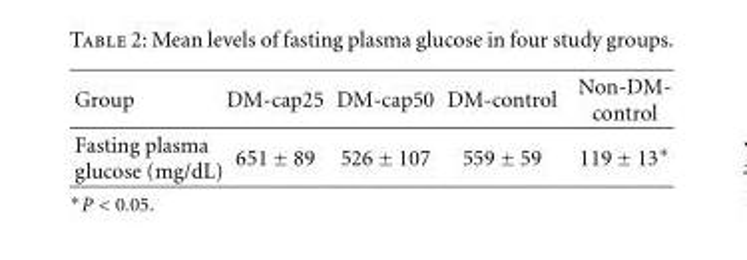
<table><thead><tr><td>Group</td><td>DM-cap25</td><td>DM-cap50</td><td>DM-control</td><td>Non-DM- control</td></tr></thead><tbody><tr><td>Fasting plasma glucose (mg/dL)</td><td>651 ± 89</td><td>526 ± 107</td><td>559 ± 59</td><td>119 ± 13∗</td></tr></tbody></table>